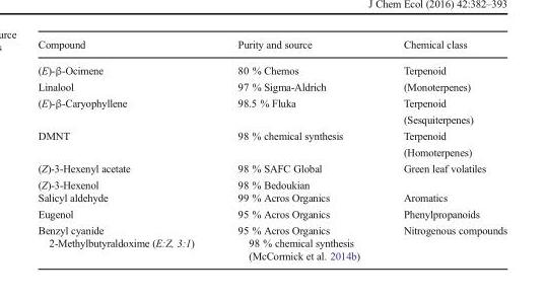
<table><thead><tr><td>Compound</td><td>Purity and source</td><td>Chemical class</td></tr></thead><tbody><tr><td>(E)-β-Ocimene Linalool</td><td>80 % Chemos 97 % Sigma-Aldrich</td><td>Terpenoid (Monoterpenes)</td></tr><tr><td>(E)-β-Caryophyllene</td><td>98.5 % Fluka</td><td>Terpenoid (Sesquiterpenes)</td></tr><tr><td>DMNT</td><td>98 % chemical synthesis</td><td>Terpenoid (Homoterpenes)</td></tr><tr><td>(Z)-3-Hexenyl acetate (Z)-3-Hexenol</td><td>98 % SAFC Global 98 % Bedoukian</td><td>Green leaf volatiles</td></tr><tr><td>Salicyl aldehyde</td><td>99 % Acros Organics</td><td>Aromatics</td></tr><tr><td>Eugenol</td><td>95 % Acros Organics</td><td>Phenylpropanoids</td></tr><tr><td>Benzyl cyanide 2-Methylbutyraldoxime (E:Z, 3:1)</td><td>95 % Acros Organics 98 % chemical synthesis (McCormick et al. 2014b)</td><td>Nitrogenous compounds</td></tr></tbody></table>